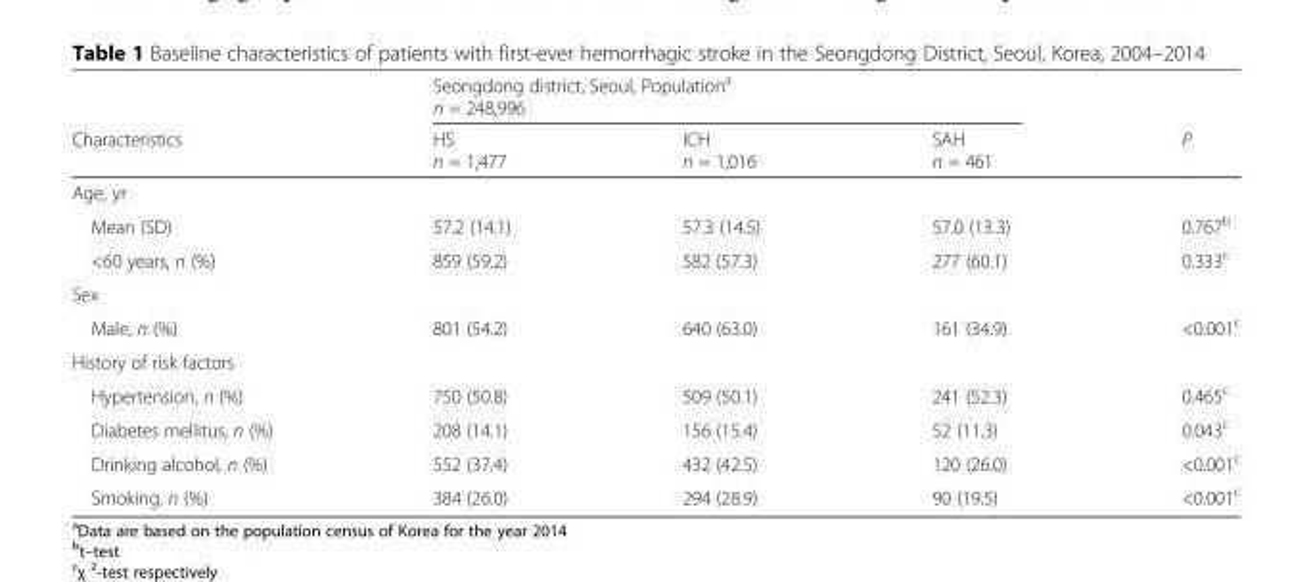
<table><thead><tr><td rowspan="2">Characteristics</td><td colspan="3">Seongdong district, Seoul, Population<sup>a</sup> n = 248,996</td><td rowspan="2">P</td></tr><tr><td>HS n = 1,477</td><td>ICH n = 1,016</td><td>SAH n = 461</td></tr></thead><tbody><tr><td colspan="5">Age, yr</td></tr><tr><td>Mean (SD)</td><td>57.2 (14.1)</td><td>57.3 (14.5)</td><td>57.0 (13.3)</td><td>0.767<sup>b</sup></td></tr><tr><td>&lt;60 years, n (%)</td><td>859 (59.2)</td><td>582 (57.3)</td><td>277 (60.1)</td><td>0.333<sup>c</sup></td></tr><tr><td colspan="5">Sex</td></tr><tr><td>Male, n (%)</td><td>801 (54.2)</td><td>640 (63.0)</td><td>161 (34.9)</td><td>&lt;0.001<sup>c</sup></td></tr><tr><td colspan="5">History of risk factors</td></tr><tr><td>Hypertension, n (%)</td><td>750 (50.8)</td><td>509 (50.1)</td><td>241 (52.3)</td><td>0.465<sup>c</sup></td></tr><tr><td>Diabetes mellitus, n (%)</td><td>208 (14.1)</td><td>156 (15.4)</td><td>52 (11.3)</td><td>0.043<sup>c</sup></td></tr><tr><td>Drinking alcohol, n (%)</td><td>552 (37.4)</td><td>432 (42.5)</td><td>120 (26.0)</td><td>&lt;0.001<sup>c</sup></td></tr><tr><td>Smoking, n (%)</td><td>384 (26.0)</td><td>294 (28.9)</td><td>90 (19.5)</td><td>&lt;0.001<sup>c</sup></td></tr></tbody></table>